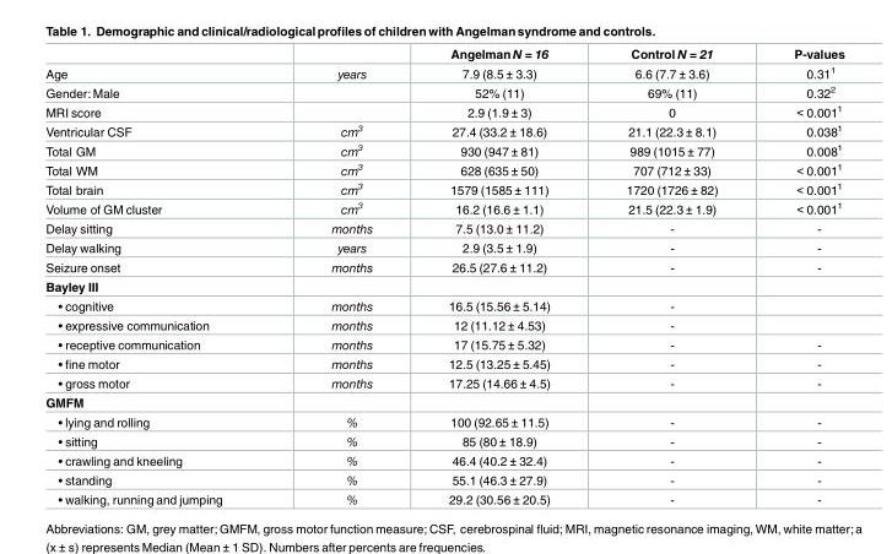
<table><thead><tr><td></td><td></td><td>Angelman N = 16</td><td>Control N = 21</td><td>P-values</td></tr></thead><tbody><tr><td>Age</td><td>years</td><td>7.9 (8.5 ± 3.3)</td><td>6.6 (7.7 ± 3.6)</td><td>0.31<sup>1</sup></td></tr><tr><td>Gender:Male</td><td></td><td>52% (11)</td><td>69% (11)</td><td>0.32<sup>2</sup></td></tr><tr><td>MRI score</td><td></td><td>2.9 (1.9 ± 3)</td><td>0</td><td>&lt; 0.001<sup>1</sup></td></tr><tr><td>Ventricular CSF</td><td>cm<sup>3</sup></td><td>27.4 (33.2 ± 18.6)</td><td>21.1 (22.3 ± 8.1)</td><td>0.038<sup>1</sup></td></tr><tr><td>Total GM</td><td>cm<sup>3</sup></td><td>930 (947 ± 81)</td><td>989 (1015 ± 77)</td><td>0.008<sup>1</sup></td></tr><tr><td>Total WM</td><td>cm<sup>3</sup></td><td>628 (635 ± 50)</td><td>707 (712 ± 33)</td><td>&lt; 0.001<sup>1</sup></td></tr><tr><td>Total brain</td><td>cm<sup>3</sup></td><td>1579 (1585 ± 111)</td><td>1720 (1726 ± 82)</td><td>&lt; 0.001<sup>1</sup></td></tr><tr><td>Volume of GM cluster</td><td>cm<sup>3</sup></td><td>16.2 (16.6 ± 1.1)</td><td>21.5 (22.3 ± 1.9)</td><td>&lt; 0.001<sup>1</sup></td></tr><tr><td>Delay sitting</td><td>months</td><td>7.5 (13.0 ± 11.2)</td><td>-</td><td>-</td></tr><tr><td>Delay walking</td><td>years</td><td>2.9 (3.5 ± 1.9)</td><td>-</td><td>-</td></tr><tr><td>Seizure onset</td><td>months</td><td>26.5 (27.6 ± 11.2)</td><td>-</td><td>-</td></tr><tr><td colspan="5">Bayley III</td></tr><tr><td>• cognitive</td><td>months</td><td>16.5 (15.56 ± 5.14)</td><td>-</td><td></td></tr><tr><td>• expressive communication</td><td>months</td><td>12 (11.12 ± 4.53)</td><td>-</td><td></td></tr><tr><td>• receptive communication</td><td>months</td><td>17 (15.75 ± 5.32)</td><td>-</td><td>-</td></tr><tr><td>• fine motor</td><td>months</td><td>12.5 (13.25 ± 5.45)</td><td>-</td><td>-</td></tr><tr><td>• gross motor</td><td>months</td><td>17.25 (14.66 ± 4.5)</td><td>-</td><td>-</td></tr><tr><td colspan="5">GMFM</td></tr><tr><td>• lying and rolling</td><td>%</td><td>100 (92.65 ± 11.5)</td><td>-</td><td>-</td></tr><tr><td>• sitting</td><td>%</td><td>85 (80 ± 18.9)</td><td>-</td><td>-</td></tr><tr><td>• crawling and kneeling</td><td>%</td><td>46.4 (40.2 ± 32.4)</td><td>-</td><td>-</td></tr><tr><td>• standing</td><td>%</td><td>55.1 (46.3 ± 27.9)</td><td>-</td><td>-</td></tr><tr><td>• walking, running and jumping</td><td>%</td><td>29.2 (30.56 ± 20.5)</td><td>-</td><td>-</td></tr></tbody></table>